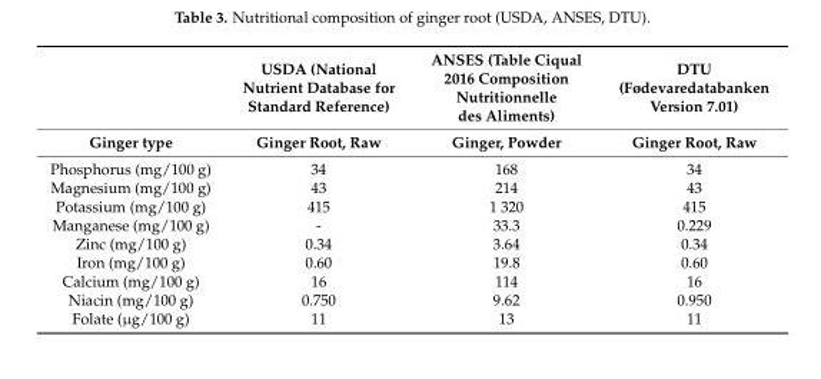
<table><thead><tr><td rowspan="2">Ginger type</td><td rowspan="2">USDA (National Nutrient Database for Standard Reference) Ginger Root, Raw</td><td rowspan="2">ANSES (Table Ciqual 2016 Composition Nutritionnelle des Aliments) Ginger, Powder</td><td rowspan="2">DTU (Fødevaredatabanken Version 7.01) Ginger Root, Raw</td></tr><tr></tr></thead><tbody><tr><td>Phosphorus (mg/100 g)</td><td>34</td><td>168</td><td>34</td></tr><tr><td>Magnesium (mg/100 g)</td><td>43</td><td>214</td><td>43</td></tr><tr><td>Potassium (mg/100 g)</td><td>415</td><td>1 320</td><td>415</td></tr><tr><td>Manganese (mg/100 g)</td><td>-</td><td>33.3</td><td>0.229</td></tr><tr><td>Zinc (mg/100 g)</td><td>0.34</td><td>3.64</td><td>0.34</td></tr><tr><td>Iron (mg/100 g)</td><td>0.60</td><td>19.8</td><td>0.60</td></tr><tr><td>Calcium (mg/100 g)</td><td>16</td><td>114</td><td>16</td></tr><tr><td>Niacin (mg/100 g)</td><td>0.750</td><td>9.62</td><td>0.950</td></tr><tr><td>Folate (µg/100 g)</td><td>11</td><td>13</td><td>11</td></tr></tbody></table>